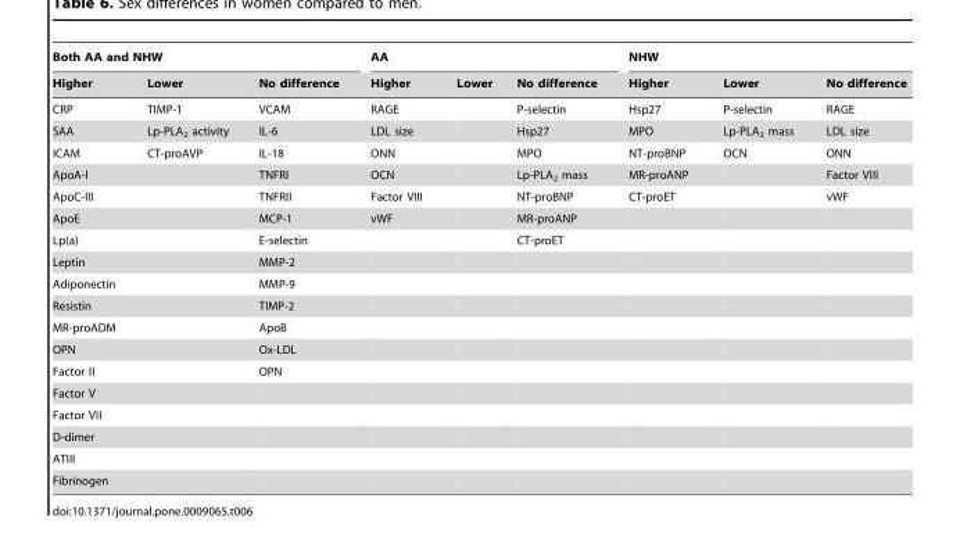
<table><thead><tr><td colspan="3">Both AA and NHW</td><td colspan="3">AA</td><td colspan="3">NHW</td></tr><tr><td>Higher</td><td>Lower</td><td>No difference</td><td>Higher</td><td>Lower</td><td>No difference</td><td>Higher</td><td>Lower</td><td>No difference</td></tr></thead><tbody><tr><td>CRP</td><td>TIMP-1</td><td>VCAM</td><td>RAGE</td><td></td><td>P-selectin</td><td>Hsp27</td><td>P-selectin</td><td>RAGE</td></tr><tr><td>SAA</td><td>Lp-PLA<sub>2</sub> activity</td><td>IL-6</td><td>LDL size</td><td></td><td>Hsp27</td><td>MPO</td><td>Lp-PLA<sub>2</sub> mass</td><td>LDL size</td></tr><tr><td>ICAM</td><td>CT-proAVP</td><td>IL-18</td><td>ONN</td><td></td><td>MPO</td><td>NT-proBNP</td><td>OCN</td><td>ONN</td></tr><tr><td>ApoA-I</td><td></td><td>TNFRI</td><td>OCN</td><td></td><td>Lp-PLA<sub>2</sub> mass</td><td>MR-proANP</td><td></td><td>Factor VIII</td></tr><tr><td>ApoC-III</td><td></td><td>TNFRII</td><td>Factor VIII</td><td></td><td>NT-proBNP</td><td>CT-proET</td><td></td><td>vWF</td></tr><tr><td>ApoE</td><td></td><td>MCP-1</td><td>vWF</td><td></td><td>MR-proANP</td><td></td><td></td><td></td></tr><tr><td>Lp(a)</td><td></td><td>E-selectin</td><td></td><td></td><td>CT-proET</td><td></td><td></td><td></td></tr><tr><td>Leptin</td><td></td><td>MMP-2</td><td></td><td></td><td></td><td></td><td></td><td></td></tr><tr><td>Adiponectin</td><td></td><td>MMP-9</td><td></td><td></td><td></td><td></td><td></td><td></td></tr><tr><td>Resistin</td><td></td><td>TIMP-2</td><td></td><td></td><td></td><td></td><td></td><td></td></tr><tr><td>MR-proADM</td><td></td><td>ApoB</td><td></td><td></td><td></td><td></td><td></td><td></td></tr><tr><td>OPN</td><td></td><td>Ox-LDL</td><td></td><td></td><td></td><td></td><td></td><td></td></tr><tr><td>Factor II</td><td></td><td>OPN</td><td></td><td></td><td></td><td></td><td></td><td></td></tr><tr><td colspan="9">Factor V</td></tr><tr><td colspan="9">Factor VII</td></tr><tr><td colspan="9">D-dimer</td></tr><tr><td colspan="9">ATIII</td></tr><tr><td>Fibrinogen</td><td></td><td></td><td></td><td></td><td></td><td></td><td></td><td></td></tr></tbody></table>